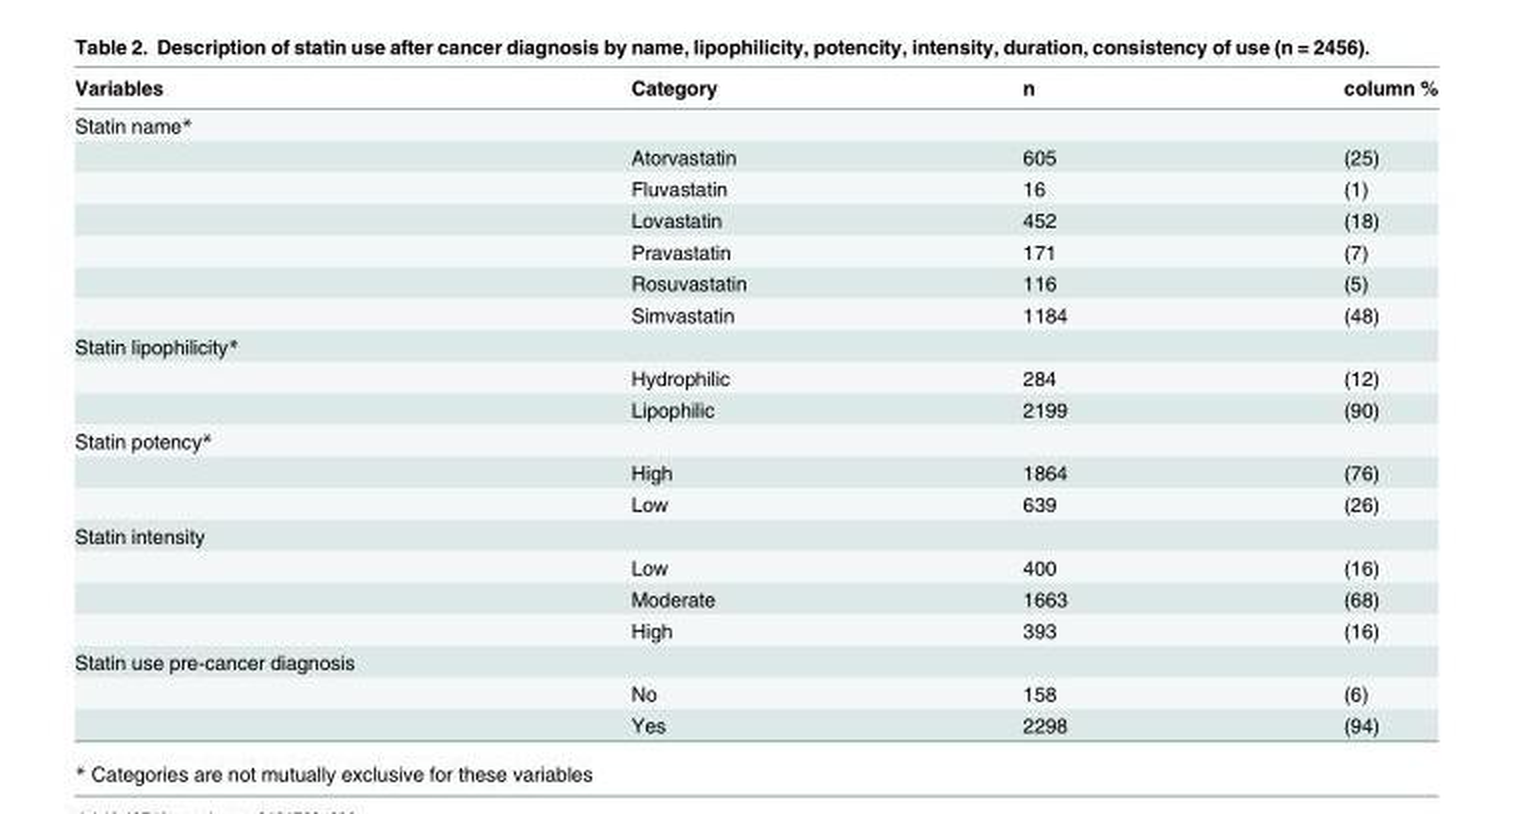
<table><thead><tr><td>Variables</td><td>Category</td><td>n</td><td>column %</td></tr></thead><tbody><tr><td colspan="4">Statin name*</td></tr><tr><td></td><td>Atorvastatin</td><td>605</td><td>(25)</td></tr><tr><td></td><td>Fluvastatin</td><td>16</td><td>(1)</td></tr><tr><td></td><td>Lovastatin</td><td>452</td><td>(18)</td></tr><tr><td></td><td>Pravastatin</td><td>171</td><td>(7)</td></tr><tr><td></td><td>Rosuvastatin</td><td>116</td><td>(5)</td></tr><tr><td></td><td>Simvastatin</td><td>1184</td><td>(48)</td></tr><tr><td colspan="4">Statin lipophilicity*</td></tr><tr><td></td><td>Hydrophilic</td><td>284</td><td>(12)</td></tr><tr><td></td><td>Lipophilic</td><td>2199</td><td>(90)</td></tr><tr><td colspan="4">Statin potency*</td></tr><tr><td></td><td>High</td><td>1864</td><td>(76)</td></tr><tr><td></td><td>Low</td><td>639</td><td>(26)</td></tr><tr><td colspan="4">Statin intensity</td></tr><tr><td></td><td>Low</td><td>400</td><td>(16)</td></tr><tr><td></td><td>Moderate</td><td>1663</td><td>(68)</td></tr><tr><td></td><td>High</td><td>393</td><td>(16)</td></tr><tr><td colspan="4">Statin use pre-cancer diagnosis</td></tr><tr><td></td><td>No</td><td>158</td><td>(6)</td></tr><tr><td></td><td>Yes</td><td>2298</td><td>(94)</td></tr></tbody></table>